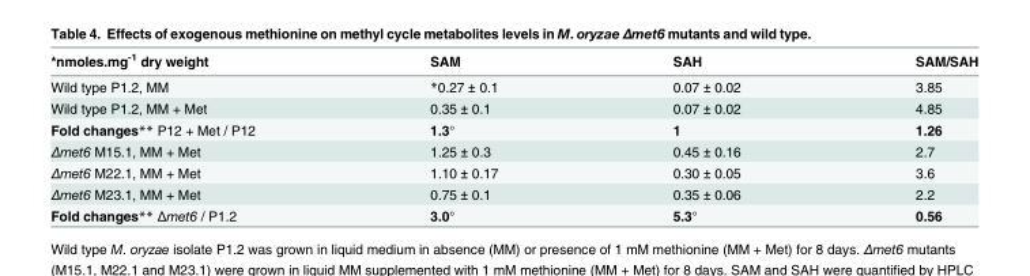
<table><thead><tr><td>*nmoles.mg<sup>-1</sup> dry weight</td><td>SAM</td><td>SAH</td><td>SAM/SAH</td></tr></thead><tbody><tr><td>Wild type P1.2, MM</td><td>*0.27 ± 0.1</td><td>0.07 ± 0.02</td><td>3.85</td></tr><tr><td>Wild type P1.2, MM + Met</td><td>0.35 ± 0.1</td><td>0.07 ± 0.02</td><td>4.85</td></tr><tr><td>Fold changes** P12 + Met / P12</td><td>1.3°</td><td>1</td><td>1.26</td></tr><tr><td>Δmet6 M15.1, MM + Met</td><td>1.25 ± 0.3</td><td>0.45 ± 0.16</td><td>2.7</td></tr><tr><td>Δmet6 M22.1, MM + Met</td><td>1.10 ± 0.17</td><td>0.30 ± 0.05</td><td>3.6</td></tr><tr><td>Δmet6 M23.1, MM + Met</td><td>0.75 ± 0.1</td><td>0.35 ± 0.06</td><td>2.2</td></tr><tr><td>Fold changes** Δmet6 / P1.2</td><td>3.0°</td><td>5.3°</td><td>0.56</td></tr></tbody></table>